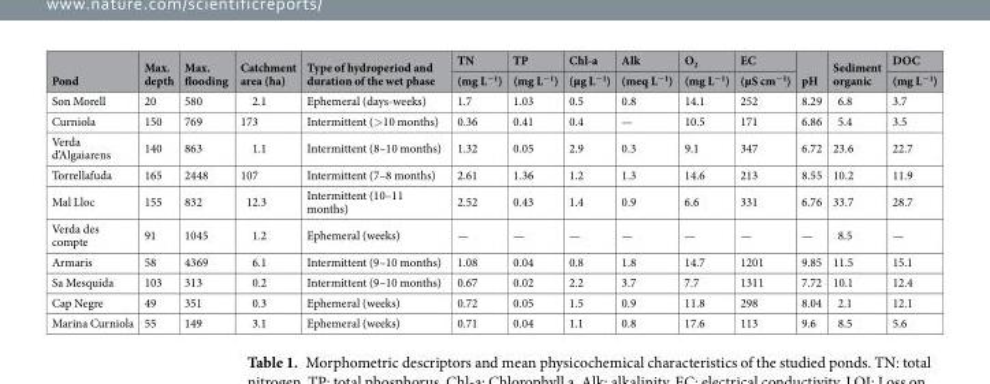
<table><thead><tr><td rowspan="2">Pond</td><td rowspan="2">Max. depth</td><td rowspan="2">Max. flooding</td><td rowspan="2">Catchment area (ha)</td><td rowspan="2">Type of hydroperiod and duration of the wet phase</td><td rowspan="2">TN (mg L<sup>−1</sup>)</td><td rowspan="2">TP (mg L<sup>−1</sup>)</td><td rowspan="2">Chl-a (µg L<sup>−1</sup>)</td><td rowspan="2">Alk (meq L<sup>−1</sup>)</td><td rowspan="2">O<sub>2</sub> (mg L<sup>−1</sup>)</td><td rowspan="2">EC (µS cm<sup>−1</sup>)</td><td rowspan="2">pH</td><td rowspan="2">Sediment organic</td><td rowspan="2">DOC (mg L<sup>−1</sup>)</td></tr><tr></tr></thead><tbody><tr><td>Son Morell</td><td>20</td><td>580</td><td>2.1</td><td>Ephemeral (days-weeks)</td><td>1.7</td><td>1.03</td><td>0.5</td><td>0.8</td><td>14.1</td><td>252</td><td>8.29</td><td>6.8</td><td>3.7</td></tr><tr><td>Curniola</td><td>150</td><td>769</td><td>173</td><td>Intermittent (&gt;10 months)</td><td>0.36</td><td>0.41</td><td>0.4</td><td>—</td><td>10.5</td><td>171</td><td>6.86</td><td>5.4</td><td>3.5</td></tr><tr><td>Verda d’Algaiarens</td><td>140</td><td>863</td><td>1.1</td><td>Intermittent (8–10 months)</td><td>1.32</td><td>0.05</td><td>2.9</td><td>0.3</td><td>9.1</td><td>347</td><td>6.72</td><td>23.6</td><td>22.7</td></tr><tr><td>Torrellafuda</td><td>165</td><td>2448</td><td>107</td><td>Intermittent (7–8 months)</td><td>2.61</td><td>1.36</td><td>1.2</td><td>1.3</td><td>14.6</td><td>213</td><td>8.55</td><td>10.2</td><td>11.9</td></tr><tr><td>Mal Lloc</td><td>155</td><td>832</td><td>12.3</td><td>Intermittent (10–11 months)</td><td>2.52</td><td>0.43</td><td>1.4</td><td>0.9</td><td>6.6</td><td>331</td><td>6.76</td><td>33.7</td><td>28.7</td></tr><tr><td>Verda des compte</td><td>91</td><td>1045</td><td>1.2</td><td>Ephemeral (weeks)</td><td>—</td><td>—</td><td>—</td><td>—</td><td>—</td><td>—</td><td>—</td><td>8.5</td><td>—</td></tr><tr><td>Armaris</td><td>58</td><td>4369</td><td>6.1</td><td>Intermittent (9–10 months)</td><td>1.08</td><td>0.04</td><td>0.8</td><td>1.8</td><td>14.7</td><td>1201</td><td>9.85</td><td>11.5</td><td>15.1</td></tr><tr><td>Sa Mesquida</td><td>103</td><td>313</td><td>0.2</td><td>Intermittent (9–10 months)</td><td>0.67</td><td>0.02</td><td>2.2</td><td>3.7</td><td>7.7</td><td>1311</td><td>7.72</td><td>10.1</td><td>12.4</td></tr><tr><td>Cap Negre</td><td>49</td><td>351</td><td>0.3</td><td>Ephemeral (weeks)</td><td>0.72</td><td>0.05</td><td>1.5</td><td>0.9</td><td>11.8</td><td>298</td><td>8.04</td><td>2.1</td><td>12.1</td></tr><tr><td>Marina Curniola</td><td>55</td><td>149</td><td>3.1</td><td>Ephemeral (weeks)</td><td>0.71</td><td>0.04</td><td>1.1</td><td>0.8</td><td>17.6</td><td>113</td><td>9.6</td><td>8.5</td><td>5.6</td></tr></tbody></table>